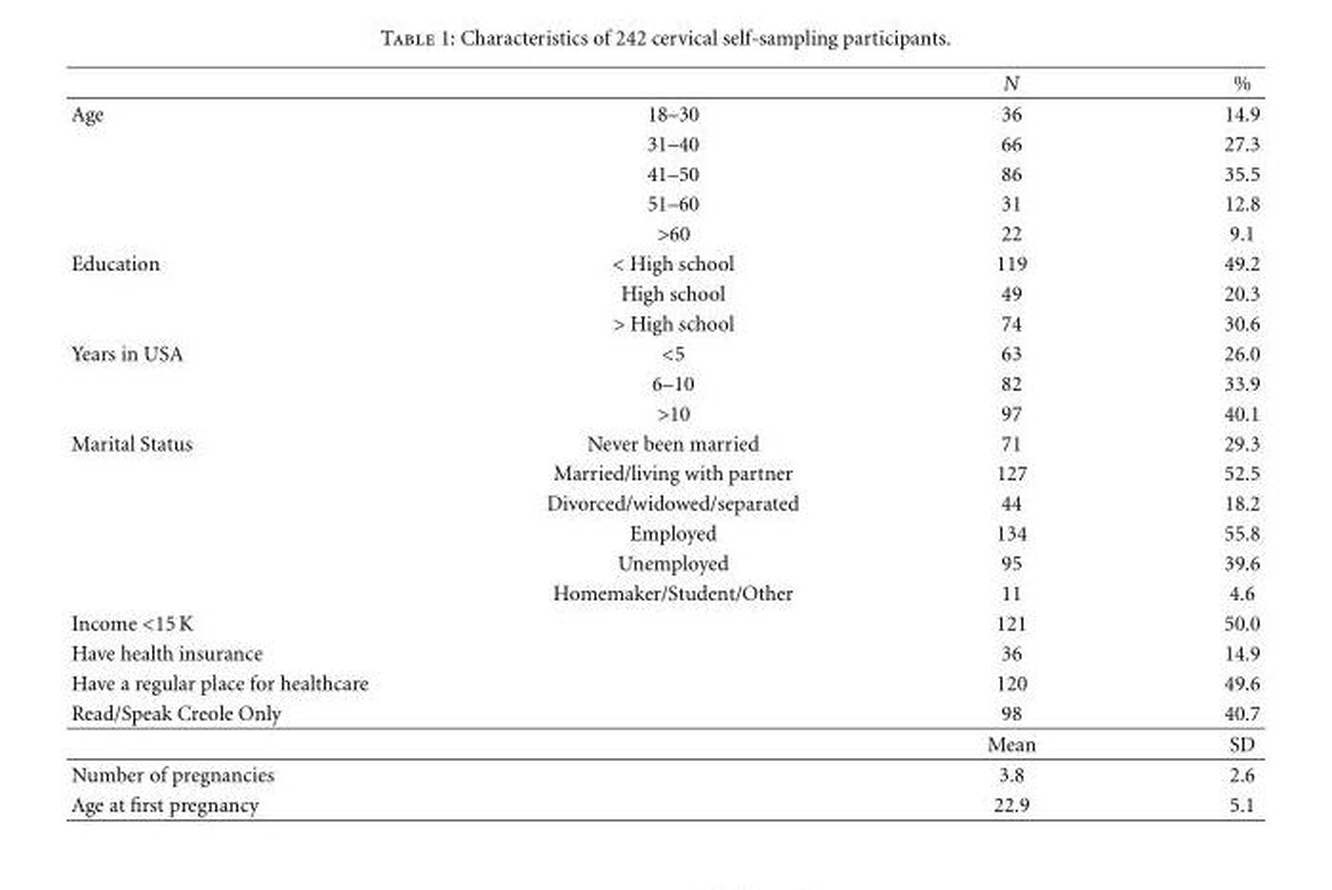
<table><thead><tr><td></td><td></td><td>N</td><td>%</td></tr></thead><tbody><tr><td rowspan="5">Age</td><td>18–30</td><td>36</td><td>14.9</td></tr><tr><td>31–40</td><td>66</td><td>27.3</td></tr><tr><td>41–50</td><td>86</td><td>35.5</td></tr><tr><td>51–60</td><td>31</td><td>12.8</td></tr><tr><td>&gt;60</td><td>22</td><td>9.1</td></tr><tr><td rowspan="3">Education</td><td>&lt; High school</td><td>119</td><td>49.2</td></tr><tr><td>High school</td><td>49</td><td>20.3</td></tr><tr><td>&gt; High school</td><td>74</td><td>30.6</td></tr><tr><td rowspan="3">Years in USA</td><td>&lt;5</td><td>63</td><td>26.0</td></tr><tr><td>6–10</td><td>82</td><td>33.9</td></tr><tr><td>&gt;10</td><td>97</td><td>40.1</td></tr><tr><td rowspan="6">Marital Status</td><td>Never been married</td><td>71</td><td>29.3</td></tr><tr><td>Married/living with partner</td><td>127</td><td>52.5</td></tr><tr><td>Divorced/widowed/separated</td><td>44</td><td>18.2</td></tr><tr><td>Employed</td><td>134</td><td>55.8</td></tr><tr><td>Unemployed</td><td>95</td><td>39.6</td></tr><tr><td>Homemaker/Student/Other</td><td>11</td><td>4.6</td></tr><tr><td>Income &lt;15 K</td><td></td><td>121</td><td>50.0</td></tr><tr><td>Have health insurance</td><td></td><td>36</td><td>14.9</td></tr><tr><td>Have a regular place for healthcare</td><td></td><td>120</td><td>49.6</td></tr><tr><td rowspan="2">Read/Speak Creole Only</td><td></td><td>98</td><td>40.7</td></tr><tr><td></td><td>Mean</td><td>SD</td></tr><tr><td>Number of pregnancies</td><td></td><td>3.8</td><td>2.6</td></tr><tr><td>Age at first pregnancy</td><td></td><td>22.9</td><td>5.1</td></tr></tbody></table>